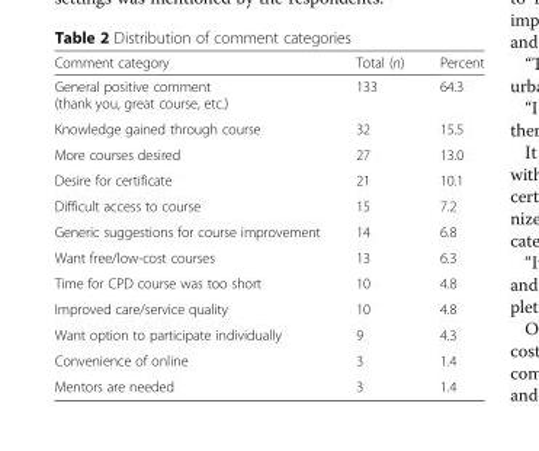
<table><thead><tr><td>Comment category</td><td>Total (n)</td><td>Percent</td></tr></thead><tbody><tr><td>General positive comment (thank you, great course, etc.)</td><td>133</td><td>64.3</td></tr><tr><td>Knowledge gained through course</td><td>32</td><td>15.5</td></tr><tr><td>More courses desired</td><td>27</td><td>13.0</td></tr><tr><td>Desire for certificate</td><td>21</td><td>10.1</td></tr><tr><td>Difficult access to course</td><td>15</td><td>7.2</td></tr><tr><td>Generic suggestions for course improvement</td><td>14</td><td>6.8</td></tr><tr><td>Want free/low-cost courses</td><td>13</td><td>6.3</td></tr><tr><td>Time for CPD course was too short</td><td>10</td><td>4.8</td></tr><tr><td>Improved care/service quality</td><td>10</td><td>4.8</td></tr><tr><td>Want option to participate individually</td><td>9</td><td>4.3</td></tr><tr><td>Convenience of online</td><td>3</td><td>1.4</td></tr><tr><td>Mentors are needed</td><td>3</td><td>1.4</td></tr></tbody></table>